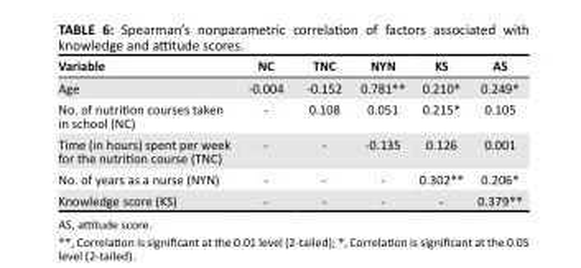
<table><thead><tr><td>Variable</td><td>NC</td><td>TNC</td><td>NYN</td><td>KS</td><td>AS</td></tr></thead><tbody><tr><td>Age</td><td>-0.004</td><td>-0.152</td><td>0.781**</td><td>0.210*</td><td>0.249*</td></tr><tr><td>No. of nutrition courses taken in school (NC)</td><td>-</td><td>0.108</td><td>0.051</td><td>0.215*</td><td>0.105</td></tr><tr><td>Time (in hours) spent per week for the nutrition course (TNC)</td><td>-</td><td>-</td><td>-0.135</td><td>0.126</td><td>0.001</td></tr><tr><td>No. of years as a nurse (NYN)</td><td>-</td><td>-</td><td>-</td><td>0.302**</td><td>0.206*</td></tr><tr><td>Knowledge score (KS)</td><td>-</td><td>-</td><td>-</td><td>-</td><td>0.379**</td></tr></tbody></table>